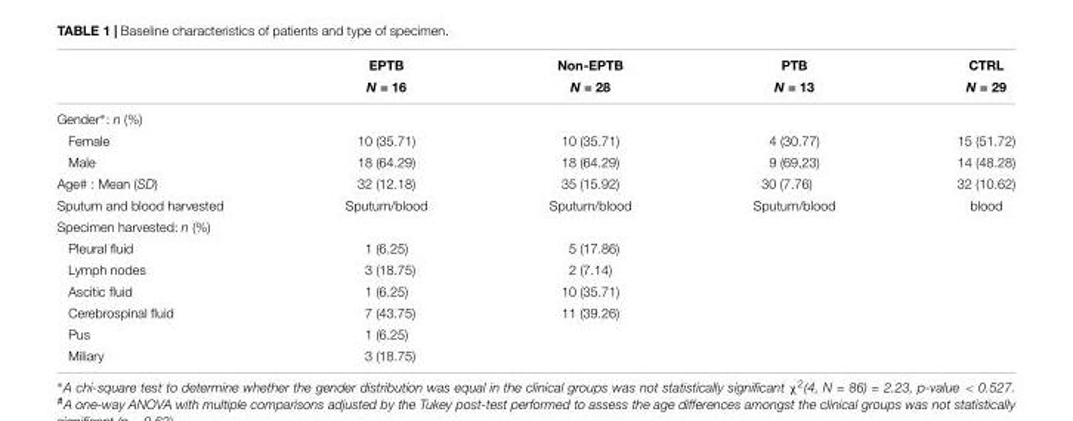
<table><thead><tr><td rowspan="2"></td><td rowspan="2">EPTB N = 16</td><td rowspan="2">Non-EPTB N = 28</td><td rowspan="2">PTB N = 13</td><td rowspan="2">CTRL N = 29</td></tr><tr></tr></thead><tbody><tr><td colspan="5">Gender∗: n (%)</td></tr><tr><td>Female</td><td>10 (35.71)</td><td>10 (35.71)</td><td>4 (30.77)</td><td>15 (51.72)</td></tr><tr><td>Male</td><td>18 (64.29)</td><td>18 (64.29)</td><td>9 (69,23)</td><td>14 (48.28)</td></tr><tr><td>Age# : Mean (SD)</td><td>32 (12.18)</td><td>35 (15.92)</td><td>30 (7.76)</td><td>32 (10.62)</td></tr><tr><td>Sputum and blood harvested</td><td>Sputum/blood</td><td>Sputum/blood</td><td>Sputum/blood</td><td>blood</td></tr><tr><td colspan="5">Specimen harvested: n (%)</td></tr><tr><td>Pleural fluid</td><td>1 (6.25)</td><td>5 (17.86)</td><td></td><td></td></tr><tr><td>Lymph nodes</td><td>3 (18.75)</td><td>2 (7.14)</td><td></td><td></td></tr><tr><td>Ascitic fluid</td><td>1 (6.25)</td><td>10 (35.71)</td><td></td><td></td></tr><tr><td>Cerebrospinal fluid</td><td>7 (43.75)</td><td>11 (39.26)</td><td></td><td></td></tr><tr><td>Pus</td><td>1 (6.25)</td><td></td><td></td><td></td></tr><tr><td>Miliary</td><td>3 (18.75)</td><td></td><td></td><td></td></tr></tbody></table>